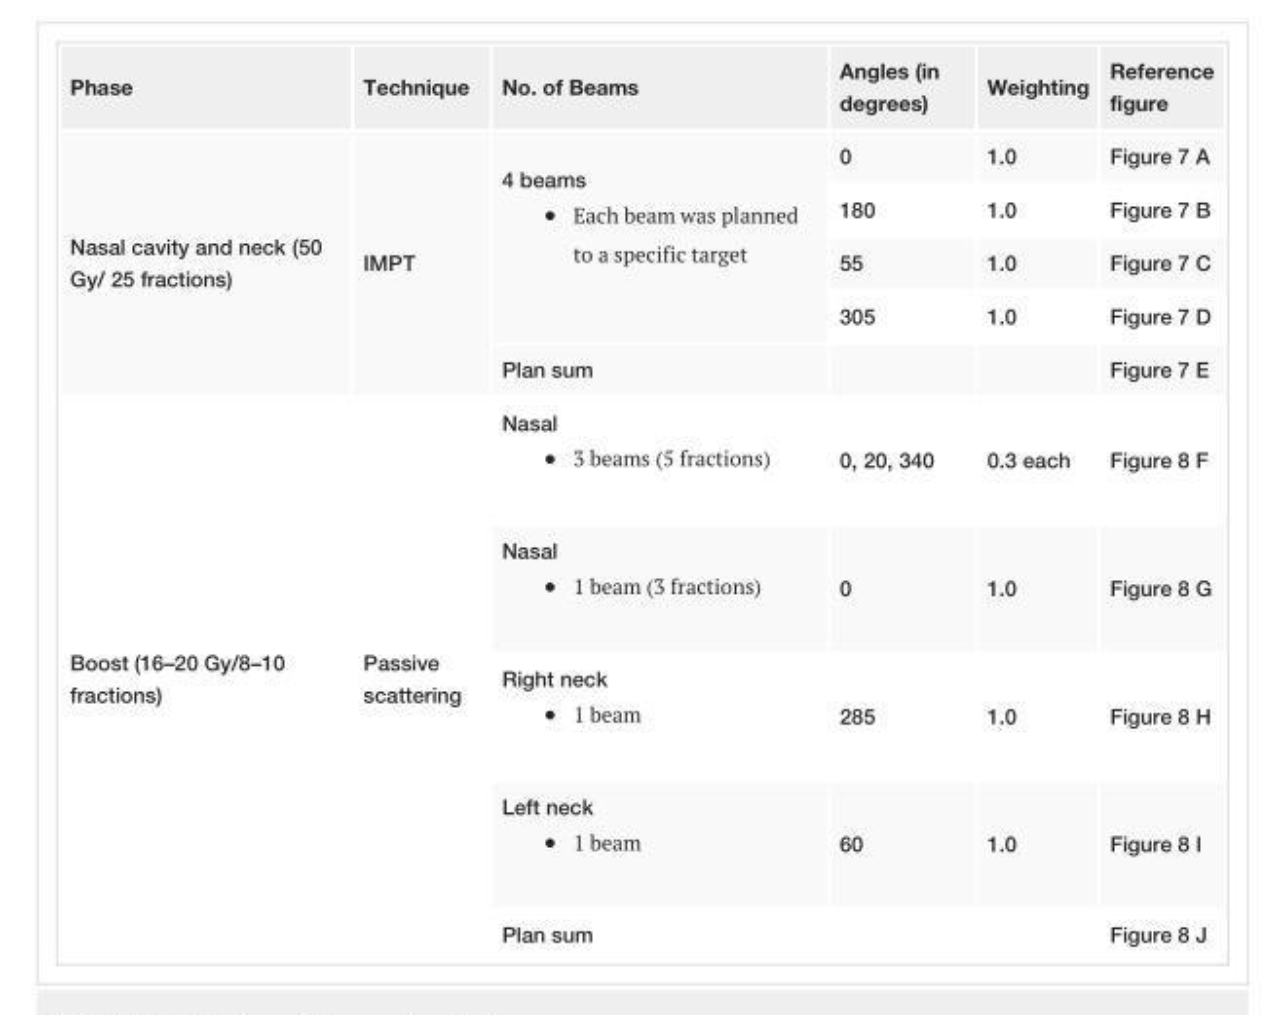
<table><tbody><tr><td>Phase</td><td>Technique</td><td>No. of Beams</td><td>Angles (in degrees)</td><td>Weighting</td><td>Reference figure</td></tr><tr><td rowspan="5">Nasal cavity and neck (50 Gy/ 25 fractions)</td><td rowspan="5">IMPT</td><td rowspan="4">4 beams Each beam was planned to a specific target</td><td>0</td><td>1.0</td><td>Figure 7 A</td></tr><tr><td>180</td><td>1.0</td><td>Figure 7 B</td></tr><tr><td>55</td><td>1.0</td><td>Figure 7 C</td></tr><tr><td>305</td><td>1.0</td><td>Figure 7 D</td></tr><tr><td>Plan sum</td><td></td><td></td><td>Figure 7 E</td></tr><tr><td rowspan="5">Boost (16–20 Gy/8–10 fractions)</td><td rowspan="5">Passive scattering</td><td>Nasal 3 beams (5 fractions)</td><td>0, 20, 340</td><td>0.3 each</td><td>Figure 8 F</td></tr><tr><td>Nasal 1 beam (3 fractions)</td><td>0</td><td>1.0</td><td>Figure 8 G</td></tr><tr><td>Right neck 1 beam</td><td>285</td><td>1.0</td><td>Figure 8 H</td></tr><tr><td>Left neck 1 beam</td><td>60</td><td>1.0</td><td>Figure 8 I</td></tr><tr><td>Plan sum</td><td></td><td></td><td>Figure 8 J</td></tr></tbody></table>